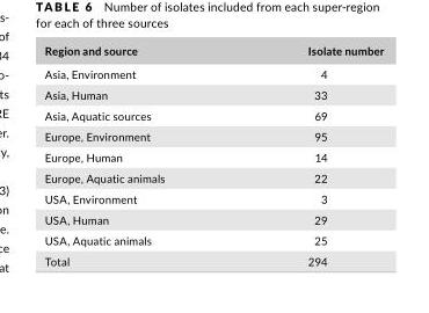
<table><thead><tr><td>Region and source</td><td>Isolate number</td></tr></thead><tbody><tr><td>Asia, Environment</td><td>4</td></tr><tr><td>Asia, Human</td><td>33</td></tr><tr><td>Asia, Aquatic sources</td><td>69</td></tr><tr><td>Europe, Environment</td><td>95</td></tr><tr><td>Europe, Human</td><td>14</td></tr><tr><td>Europe, Aquatic animals</td><td>22</td></tr><tr><td>USA, Environment</td><td>3</td></tr><tr><td>USA, Human</td><td>29</td></tr><tr><td>USA, Aquatic animals</td><td>25</td></tr><tr><td>Total</td><td>294</td></tr></tbody></table>